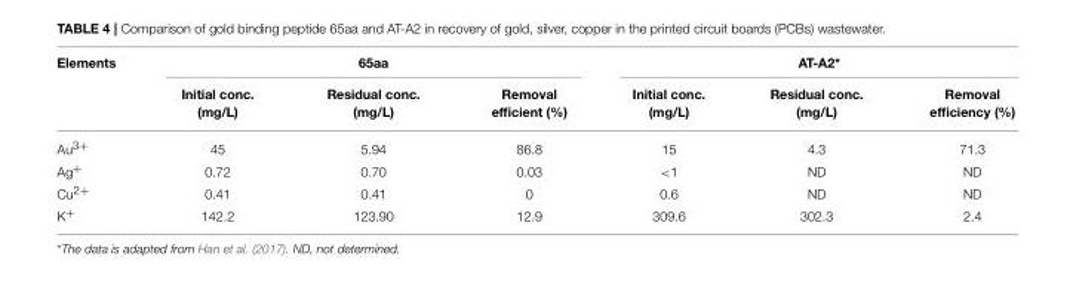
<table><thead><tr><td rowspan="2">Elements</td><td colspan="3">65aa</td><td colspan="3">AT-A2*</td></tr><tr><td>Initial conc. (mg/L)</td><td>Residual conc. (mg/L)</td><td>Removal efficient (%)</td><td>Initial conc. (mg/L)</td><td>Residual conc. (mg/L)</td><td>Removal efficiency (%)</td></tr></thead><tbody><tr><td>Au<sup>3+</sup></td><td>45</td><td>5.94</td><td>86.8</td><td>15</td><td>4.3</td><td>71.3</td></tr><tr><td>Ag<sup>+</sup></td><td>0.72</td><td>0.70</td><td>0.03</td><td>&lt;1</td><td>ND</td><td>ND</td></tr><tr><td>Cu<sup>2+</sup></td><td>0.41</td><td>0.41</td><td>0</td><td>0.6</td><td>ND</td><td>ND</td></tr><tr><td>K<sup>+</sup></td><td>142.2</td><td>123.90</td><td>12.9</td><td>309.6</td><td>302.3</td><td>2.4</td></tr></tbody></table>